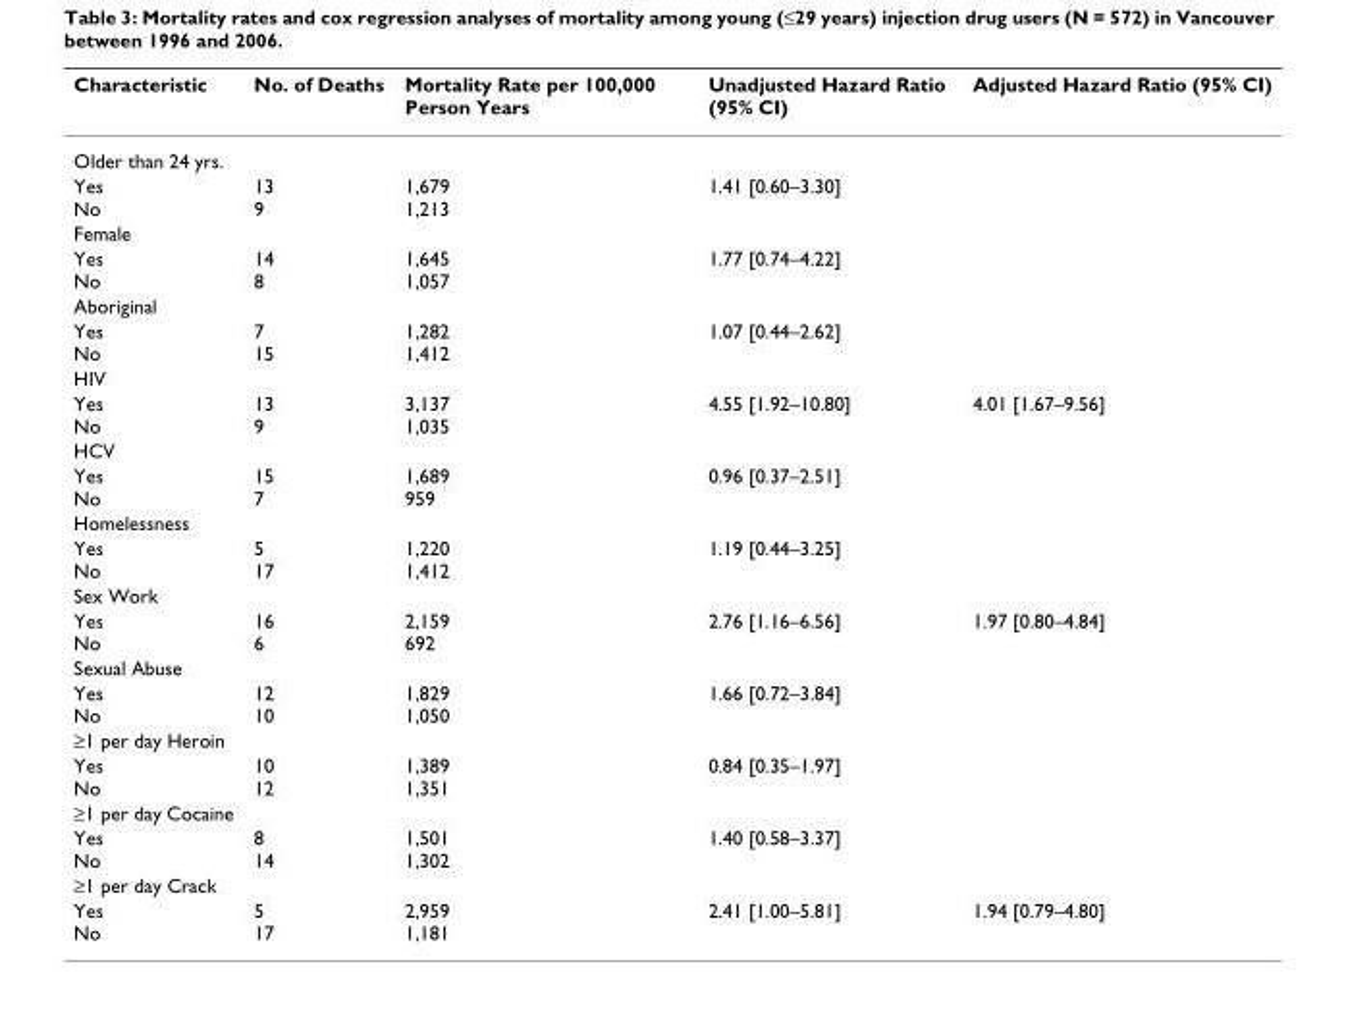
<table><thead><tr><td>Characteristic</td><td>No. of Deaths</td><td>Mortality Rate per 100,000 Person Years</td><td>Unadjusted Hazard Ratio (95% CI)</td><td>Adjusted Hazard Ratio (95% CI)</td></tr></thead><tbody><tr><td colspan="5">Older than 24 yrs.</td></tr><tr><td>Yes No</td><td>13 9</td><td>1,679 1,213</td><td>1.41 [0.60–3.30]</td><td></td></tr><tr><td colspan="5">Female</td></tr><tr><td>Yes No</td><td>14 8</td><td>1,645 1,057</td><td>1.77 [0.74–4.22]</td><td></td></tr><tr><td colspan="5">Aboriginal</td></tr><tr><td>Yes No</td><td>7 15</td><td>1,282 1,412</td><td>1.07 [0.44–2.62]</td><td></td></tr><tr><td colspan="5">HIV</td></tr><tr><td>Yes No</td><td>13 9</td><td>3,137 1,035</td><td>4.55 [1.92–10.80]</td><td>4.01 [1.67–9.56]</td></tr><tr><td colspan="5">HCV</td></tr><tr><td>Yes No</td><td>15 7</td><td>1,689 959</td><td>0.96 [0.37–2.51]</td><td></td></tr><tr><td colspan="5">Homelessness</td></tr><tr><td>Yes No</td><td>5 17</td><td>1,220 1,412</td><td>1.19 [0.44–3.25]</td><td></td></tr><tr><td colspan="5">Sex Work</td></tr><tr><td>Yes No</td><td>16 6</td><td>2,159 692</td><td>2.76 [1.16–6.56]</td><td>1.97 [0.80–4.84]</td></tr><tr><td colspan="5">Sexual Abuse</td></tr><tr><td>Yes No</td><td>12 10</td><td>1,829 1,050</td><td>1.66 [0.72–3.84]</td><td></td></tr><tr><td colspan="5">≥1 per day Heroin</td></tr><tr><td>Yes No</td><td>10 12</td><td>1,389 1,351</td><td>0.84 [0.35–1.97]</td><td></td></tr><tr><td colspan="5">≥1 per day Cocaine</td></tr><tr><td>Yes No</td><td>8 14</td><td>1,501 1,302</td><td>1.40 [0.58–3.37]</td><td></td></tr><tr><td colspan="5">≥1 per day Crack</td></tr><tr><td>Yes No</td><td>5 17</td><td>2,959 1,181</td><td>2.41 [1.00–5.81]</td><td>1.94 [0.79–4.80]</td></tr></tbody></table>